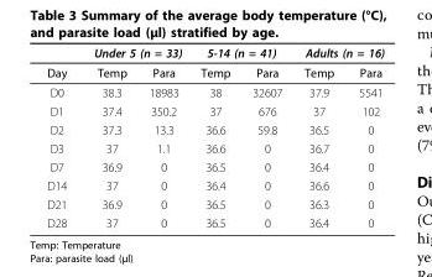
<table><thead><tr><td rowspan="2">Day</td><td colspan="2">Under 5 (n = 33)</td><td colspan="2">5-14 (n = 41)</td><td colspan="2">Adults (n = 16)</td></tr><tr><td>Temp</td><td>Para</td><td>Temp</td><td>Para</td><td>Temp</td><td>Para</td></tr></thead><tbody><tr><td>D0</td><td>38.3</td><td>18983</td><td>38</td><td>32607</td><td>37.9</td><td>5541</td></tr><tr><td>D1</td><td>37.4</td><td>350.2</td><td>37</td><td>676</td><td>37</td><td>102</td></tr><tr><td>D2</td><td>37.3</td><td>13.3</td><td>36.6</td><td>59.8</td><td>36.5</td><td>0</td></tr><tr><td>D3</td><td>37</td><td>1.1</td><td>36.6</td><td>0</td><td>36.7</td><td>0</td></tr><tr><td>D7</td><td>36.9</td><td>0</td><td>36.5</td><td>0</td><td>36.4</td><td>0</td></tr><tr><td>D14</td><td>37</td><td>0</td><td>36.4</td><td>0</td><td>36.6</td><td>0</td></tr><tr><td>D21</td><td>36.9</td><td>0</td><td>36.5</td><td>0</td><td>36.3</td><td>0</td></tr><tr><td>D28</td><td>37</td><td>0</td><td>36.5</td><td>0</td><td>36.4</td><td>0</td></tr></tbody></table>